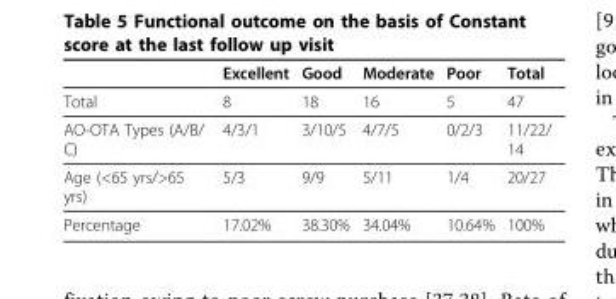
<table><thead><tr><td></td><td>Excellent</td><td>Good</td><td>Moderate</td><td>Poor</td><td>Total</td></tr></thead><tbody><tr><td>Total</td><td>8</td><td>18</td><td>16</td><td>5</td><td>47</td></tr><tr><td>AO-OTA Types (A/B/ C)</td><td>4/3/1</td><td>3/10/5</td><td>4/7/5</td><td>0/2/3</td><td>11/22/ 14</td></tr><tr><td>Age (&lt;65 yrs/&gt;65 yrs)</td><td>5/3</td><td>9/9</td><td>5/11</td><td>1/4</td><td>20/27</td></tr><tr><td>Percentage</td><td>17.02%</td><td>38.30%</td><td>34.04%</td><td>10.64%</td><td>100%</td></tr></tbody></table>